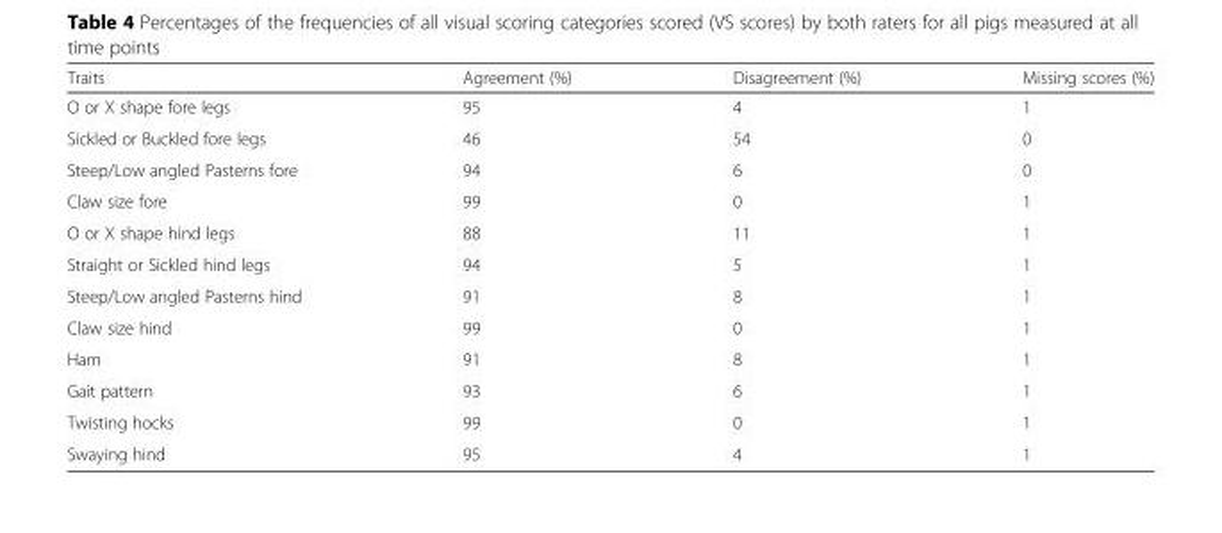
<table><thead><tr><td>Traits</td><td>Agreement (%)</td><td>Disagreement (%)</td><td>Missing scores (%)</td></tr></thead><tbody><tr><td>O or X shape fore legs</td><td>95</td><td>4</td><td>1</td></tr><tr><td>Sickled or Buckled fore legs</td><td>46</td><td>54</td><td>0</td></tr><tr><td>Steep/Low angled Pasterns fore</td><td>94</td><td>6</td><td>0</td></tr><tr><td>Claw size fore</td><td>99</td><td>0</td><td>1</td></tr><tr><td>O or X shape hind legs</td><td>88</td><td>11</td><td>1</td></tr><tr><td>Straight or Sickled hind legs</td><td>94</td><td>5</td><td>1</td></tr><tr><td>Steep/Low angled Pasterns hind</td><td>91</td><td>8</td><td>1</td></tr><tr><td>Claw size hind</td><td>99</td><td>0</td><td>1</td></tr><tr><td>Ham</td><td>91</td><td>8</td><td>1</td></tr><tr><td>Gait pattern</td><td>93</td><td>6</td><td>1</td></tr><tr><td>Twisting hocks</td><td>99</td><td>0</td><td>1</td></tr><tr><td>Swaying hind</td><td>95</td><td>4</td><td>1</td></tr></tbody></table>